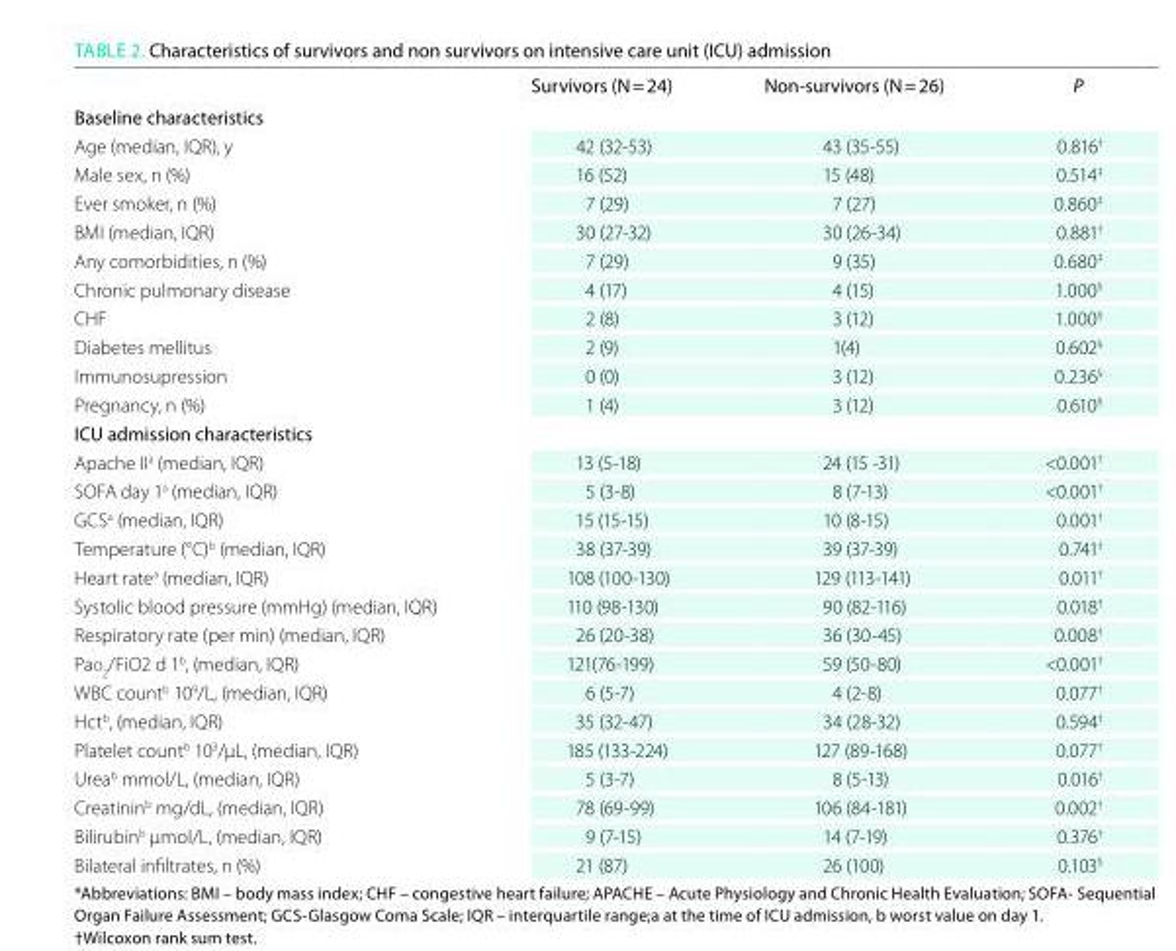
<table><thead><tr><td></td><td>Survivors (N = 24)</td><td>Non-survivors (N = 26)</td><td>P</td></tr></thead><tbody><tr><td colspan="4">Baseline characteristics</td></tr><tr><td>Age (median, IQR), y</td><td>42 (32-53)</td><td>43 (35-55)</td><td>0.816<sup>†</sup></td></tr><tr><td>Male sex, n (%)</td><td>16 (52)</td><td>15 (48)</td><td>0.514<sup>‡</sup></td></tr><tr><td>Ever smoker, n (%)</td><td>7 (29)</td><td>7 (27)</td><td>0.860<sup>‡</sup></td></tr><tr><td>BMI (median, IQR)</td><td>30 (27-32)</td><td>30 (26-34)</td><td>0.881<sup>†</sup></td></tr><tr><td>Any comorbidities, n (%)</td><td>7 (29)</td><td>9 (35)</td><td>0.680<sup>‡</sup></td></tr><tr><td>Chronic pulmonary disease</td><td>4 (17)</td><td>4 (15)</td><td>1.000<sup>§</sup></td></tr><tr><td>CHF</td><td>2 (8)</td><td>3 (12)</td><td>1.000<sup>§</sup></td></tr><tr><td>Diabetes mellitus</td><td>2 (9)</td><td>1(4)</td><td>0.602<sup>§</sup></td></tr><tr><td>Immunosupression</td><td>0 (0)</td><td>3 (12)</td><td>0.236<sup>§</sup></td></tr><tr><td>Pregnancy, n (%)</td><td>1 (4)</td><td>3 (12)</td><td>0.610<sup>§</sup></td></tr><tr><td colspan="4">iCU admission characteristics</td></tr><tr><td>Apache II<sup>a</sup> (median, IQR)</td><td>13 (5-18)</td><td>24 (15 -31)</td><td>&lt;0.001<sup>†</sup></td></tr><tr><td>SOFA day 1<sup>a</sup> (median, IQR)</td><td>5 (3-8)</td><td>8 (7-13)</td><td>&lt;0.001<sup>†</sup></td></tr><tr><td>GCS<sup>a</sup> (median, IQR)</td><td>15 (15-15)</td><td>10 (8-15)</td><td>0.001<sup>†</sup></td></tr><tr><td>Temperature (°C)<sup>b</sup> (median, IQR)</td><td>38 (37-39)</td><td>39 (37-39)</td><td>0.741<sup>†</sup></td></tr><tr><td>Heart rate<sup>a</sup> (median, IQR)</td><td>108 (100-130)</td><td>129 (113-141)</td><td>0.011<sup>†</sup></td></tr><tr><td>Systolic blood pressure (mmHg) (median, IQR)</td><td>110 (98-130)</td><td>90 (82-116)</td><td>0.018<sup>†</sup></td></tr><tr><td>Respiratory rate (per min) (median, IQR)</td><td>26 (20-38)</td><td>36 (30-45)</td><td>0.008<sup>†</sup></td></tr><tr><td>Pao<sub>2</sub>/FiO2 d 1<sup>b</sup>, (median, IQR)</td><td>121(76-199)</td><td>59 (50-80)</td><td>&lt;0.001<sup>†</sup></td></tr><tr><td>WBC count<sup>b</sup> 10<sup>9</sup>/L, (median, IQR)</td><td>6 (5-7)</td><td>4 (2-8)</td><td>0.077<sup>†</sup></td></tr><tr><td>Hct<sup>b</sup>, (median, IQR)</td><td>35 (32-47)</td><td>34 (28-32)</td><td>0.594<sup>†</sup></td></tr><tr><td>Platelet count<sup>b</sup> 10<sup>3</sup>/μL, (median, IQR)</td><td>185 (133-224)</td><td>127 (89-168)</td><td>0.077<sup>†</sup></td></tr><tr><td>Urea<sup>b</sup> mmol/L, (median, IQR)</td><td>5 (3-7)</td><td>8 (5-13)</td><td>0.016<sup>†</sup></td></tr><tr><td>Creatinin<sup>b</sup> mg/dL, (median, IQR)</td><td>78 (69-99)</td><td>106 (84-181)</td><td>0.002<sup>†</sup></td></tr><tr><td>Bilirubin<sup>b</sup> μmol/L, (median, IQR)</td><td>9 (7-15)</td><td>14 (7-19)</td><td>0.376<sup>†</sup></td></tr><tr><td>Bilateral infiltrates, n (%)</td><td>21 (87)</td><td>26 (100)</td><td>0.103<sup>§</sup></td></tr></tbody></table>